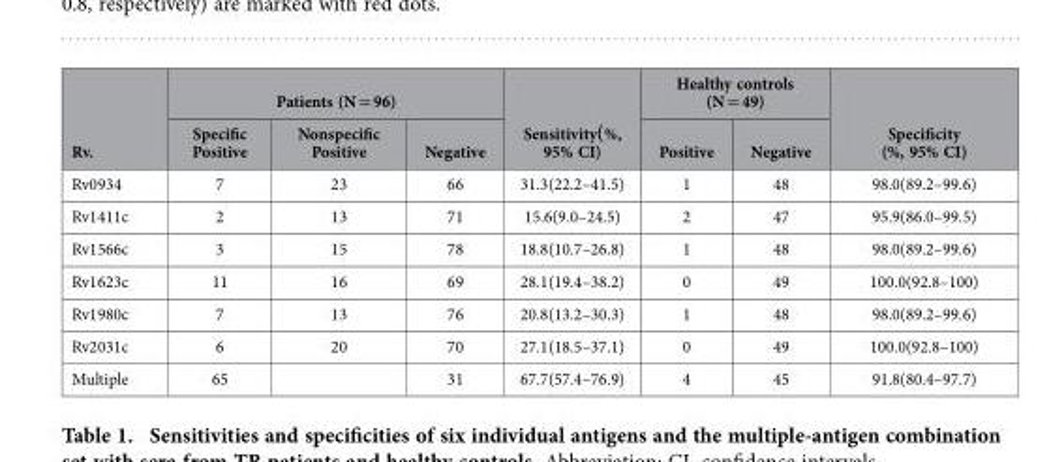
<table><thead><tr><td rowspan="2">Rv.</td><td colspan="3">Patients (N = 96)</td><td rowspan="2">Sensitivity(%, 95% CI)</td><td colspan="2">Healthy controls (N = 49)</td><td rowspan="2">Specificity (%, 95% CI)</td></tr><tr><td>Specific Positive</td><td>Nonspecific Positive</td><td>Negative</td><td>Positive</td><td>Negative</td></tr></thead><tbody><tr><td>Rv0934</td><td>7</td><td>23</td><td>66</td><td>31.3(22.2–41.5)</td><td>1</td><td>48</td><td>98.0(89.2–99.6)</td></tr><tr><td>Rv1411c</td><td>2</td><td>13</td><td>71</td><td>15.6(9.0–24.5)</td><td>2</td><td>47</td><td>95.9(86.0–99.5)</td></tr><tr><td>Rv1566c</td><td>3</td><td>15</td><td>78</td><td>18.8(10.7–26.8)</td><td>1</td><td>48</td><td>98.0(89.2–99.6)</td></tr><tr><td>Rv1623c</td><td>11</td><td>16</td><td>69</td><td>28.1(19.4–38.2)</td><td>0</td><td>49</td><td>100.0(92.8–100)</td></tr><tr><td>Rv1980c</td><td>7</td><td>13</td><td>76</td><td>20.8(13.2–30.3)</td><td>1</td><td>48</td><td>98.0(89.2–99.6)</td></tr><tr><td>Rv2031c</td><td>6</td><td>20</td><td>70</td><td>27.1(18.5–37.1)</td><td>0</td><td>49</td><td>100.0(92.8–100)</td></tr><tr><td>Multiple</td><td>65</td><td></td><td>31</td><td>67.7(57.4–76.9)</td><td>4</td><td>45</td><td>91.8(80.4–97.7)</td></tr></tbody></table>